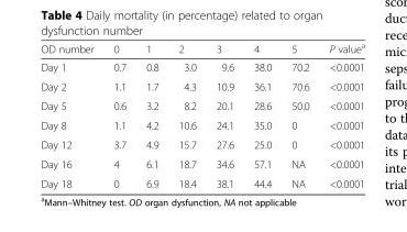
<table><thead><tr><td>OD number</td><td>0</td><td>1</td><td>2</td><td>3</td><td>4</td><td>5</td><td>P value<sup>a</sup></td></tr></thead><tbody><tr><td>Day 1</td><td>0.7</td><td>0.8</td><td>3.0</td><td>9.6</td><td>38.0</td><td>70.2</td><td>&lt;0.0001</td></tr><tr><td>Day 2</td><td>1.1</td><td>1.7</td><td>4.3</td><td>10.9</td><td>36.1</td><td>70.6</td><td>&lt;0.0001</td></tr><tr><td>Day 5</td><td>0.6</td><td>3.2</td><td>8.2</td><td>20.1</td><td>28.6</td><td>50.0</td><td>&lt;0.0001</td></tr><tr><td>Day 8</td><td>1.1</td><td>4.2</td><td>10.6</td><td>24.1</td><td>35.0</td><td>0</td><td>&lt;0.0001</td></tr><tr><td>Day 12</td><td>3.7</td><td>4.9</td><td>15.7</td><td>27.6</td><td>25.0</td><td>0</td><td>&lt;0.0001</td></tr><tr><td>Day 16</td><td>4</td><td>6.1</td><td>18.7</td><td>34.6</td><td>57.1</td><td>NA</td><td>&lt;0.0001</td></tr><tr><td>Day 18</td><td>0</td><td>6.9</td><td>18.4</td><td>38.1</td><td>44.4</td><td>NA</td><td>&lt;0.0001</td></tr></tbody></table>